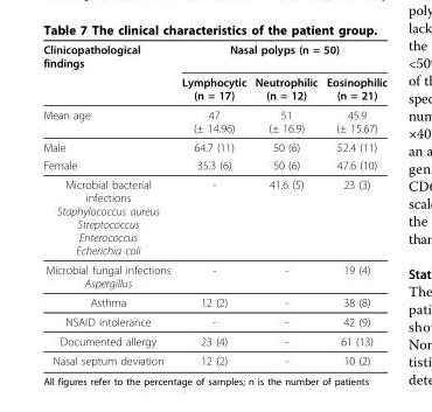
<table><thead><tr><td rowspan="2">Clinicopathological findings</td><td colspan="3">Nasal polyps (n = 50)</td></tr><tr><td>Lymphocytic (n = 17)</td><td>Neutrophilic (n = 12)</td><td>Eosinophilic (n = 21)</td></tr></thead><tbody><tr><td>Mean age</td><td>47 (± 14.96)</td><td>51 (± 16.9)</td><td>45.9 (± 15.67)</td></tr><tr><td>Male</td><td>64.7 (11)</td><td>50 (6)</td><td>52.4 (11)</td></tr><tr><td>Female</td><td>35.3 (6)</td><td>50 (6)</td><td>47.6 (10)</td></tr><tr><td>Microbial bacterial infections Staphylococcus aureus Streptococcus Enterococcus Echerichia coli</td><td>-</td><td>41.6 (5)</td><td>23 (3)</td></tr><tr><td>Microbial fungal infections Aspergillus</td><td>-</td><td>-</td><td>19 (4)</td></tr><tr><td>Asthma</td><td>12 (2)</td><td>-</td><td>38 (8)</td></tr><tr><td>NSAID intolerance</td><td>-</td><td>-</td><td>42 (9)</td></tr><tr><td>Documented allergy</td><td>23 (4)</td><td>-</td><td>61 (13)</td></tr><tr><td>Nasal septum deviation</td><td>12 (2)</td><td>-</td><td>10 (2)</td></tr></tbody></table>